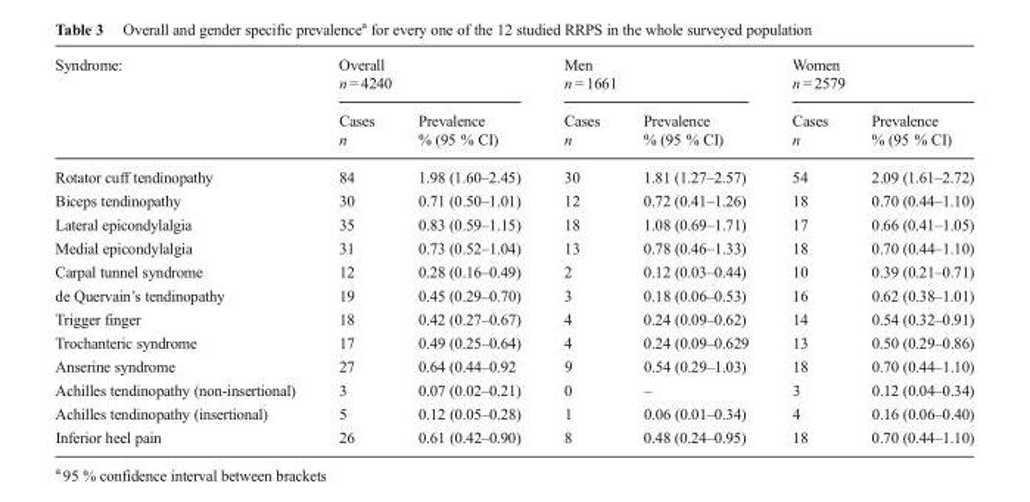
<table><thead><tr><td rowspan="2">Syndrome:</td><td colspan="2">Overall n = 4240</td><td colspan="2">Men n = 1661</td><td colspan="2">Women n = 2579</td></tr><tr><td>Cases n</td><td>Prevalence % (95 % CI)</td><td>Cases n</td><td>Prevalence % (95 % CI)</td><td>Cases n</td><td>Prevalence % (95 % CI)</td></tr></thead><tbody><tr><td>Rotator cuff tendinopathy</td><td>84</td><td>1.98 (1.60–2.45)</td><td>30</td><td>1.81 (1.27–2.57)</td><td>54</td><td>2.09 (1.61–2.72)</td></tr><tr><td>Biceps tendinopathy</td><td>30</td><td>0.71 (0.50–1.01)</td><td>12</td><td>0.72 (0.41–1.26)</td><td>18</td><td>0.70 (0.44–1.10)</td></tr><tr><td>Lateral epicondylalgia</td><td>35</td><td>0.83 (0.59–1.15)</td><td>18</td><td>1.08 (0.69–1.71)</td><td>17</td><td>0.66 (0.41–1.05)</td></tr><tr><td>Medial epicondylalgia</td><td>31</td><td>0.73 (0.52–1.04)</td><td>13</td><td>0.78 (0.46–1.33)</td><td>18</td><td>0.70 (0.44–1.10)</td></tr><tr><td>Carpal tunnel syndrome</td><td>12</td><td>0.28 (0.16–0.49)</td><td>2</td><td>0.12 (0.03–0.44)</td><td>10</td><td>0.39 (0.21–0.71)</td></tr><tr><td>de Quervain’s tendinopathy</td><td>19</td><td>0.45 (0.29–0.70)</td><td>3</td><td>0.18 (0.06–0.53)</td><td>16</td><td>0.62 (0.38–1.01)</td></tr><tr><td>Trigger finger</td><td>18</td><td>0.42 (0.27–0.67)</td><td>4</td><td>0.24 (0.09–0.62)</td><td>14</td><td>0.54 (0.32–0.91)</td></tr><tr><td>Trochanteric syndrome</td><td>17</td><td>0.49 (0.25–0.64)</td><td>4</td><td>0.24 (0.09–0.629</td><td>13</td><td>0.50 (0.29–0.86)</td></tr><tr><td>Anserine syndrome</td><td>27</td><td>0.64 (0.44–0.92</td><td>9</td><td>0.54 (0.29–1.03)</td><td>18</td><td>0.70 (0.44–1.10)</td></tr><tr><td>Achilles tendinopathy (non-insertional)</td><td>3</td><td>0.07 (0.02–0.21)</td><td>0</td><td>–</td><td>3</td><td>0.12 (0.04–0.34)</td></tr><tr><td>Achilles tendinopathy (insertional)</td><td>5</td><td>0.12 (0.05–0.28)</td><td>1</td><td>0.06 (0.01–0.34)</td><td>4</td><td>0.16 (0.06–0.40)</td></tr><tr><td>Inferior heel pain</td><td>26</td><td>0.61 (0.42–0.90)</td><td>8</td><td>0.48 (0.24–0.95)</td><td>18</td><td>0.70 (0.44–1.10)</td></tr></tbody></table>